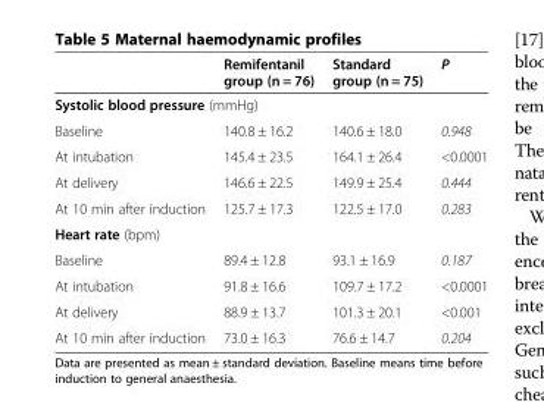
<table><thead><tr><td></td><td>Remifentanil group (n = 76)</td><td>Standard group (n = 75)</td><td>P</td></tr></thead><tbody><tr><td colspan="4">Systolic blood pressure (mmHg)</td></tr><tr><td>Baseline</td><td>140.8 ± 16.2</td><td>140.6 ± 18.0</td><td>0.948</td></tr><tr><td>At intubation</td><td>145.4 ± 23.5</td><td>164.1 ± 26.4</td><td>&lt;0.0001</td></tr><tr><td>At delivery</td><td>146.6 ± 22.5</td><td>149.9 ± 25.4</td><td>0.444</td></tr><tr><td>At 10 min after induction</td><td>125.7 ± 17.3</td><td>122.5 ± 17.0</td><td>0.283</td></tr><tr><td colspan="4">Heart rate (bpm)</td></tr><tr><td>Baseline</td><td>89.4 ± 12.8</td><td>93.1 ± 16.9</td><td>0.187</td></tr><tr><td>At intubation</td><td>91.8 ± 16.6</td><td>109.7 ± 17.2</td><td>&lt;0.0001</td></tr><tr><td>At delivery</td><td>88.9 ± 13.7</td><td>101.3 ± 20.1</td><td>&lt;0.001</td></tr><tr><td>At 10 min after induction</td><td>73.0 ± 16.3</td><td>76.6 ± 14.7</td><td>0.204</td></tr></tbody></table>